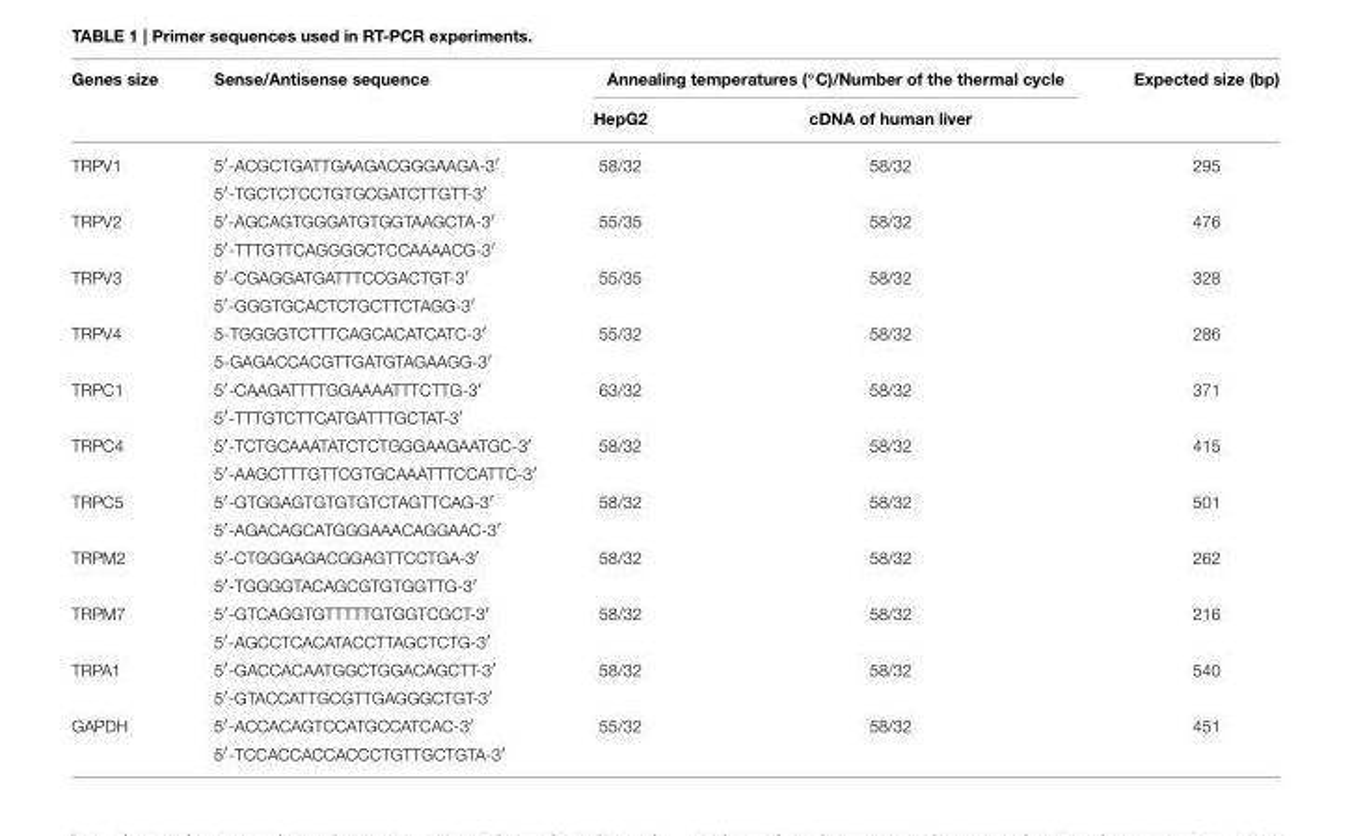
<table><thead><tr><td rowspan="2">Genes size</td><td rowspan="2">Sense/Antisense sequence</td><td colspan="2">Annealing temperatures (◦C)/Number of the thermal cycle</td><td rowspan="2">Expected size (bp)</td></tr><tr><td>HepG2</td><td>cDNA of human liver</td></tr></thead><tbody><tr><td rowspan="2">TRPV1</td><td>5′-ACGCTGATTGAAGACGGGAAGA-3′</td><td>58/32</td><td>58/32</td><td>295</td></tr><tr><td>5′-TGCTCTCCTGTGCGATCTTGTT-3′</td><td></td><td></td><td></td></tr><tr><td rowspan="2">TRPV2</td><td>5′-AGCAGTGGGATGTGGTAAGCTA-3′</td><td>55/35</td><td>58/32</td><td>476</td></tr><tr><td>5′-TTTGTTCAGGGGCTCCAAAACG-3′</td><td></td><td></td><td></td></tr><tr><td rowspan="2">TRPV3</td><td>5′-CGAGGATGATTTCCGACTGT-3′</td><td>55/35</td><td>58/32</td><td>328</td></tr><tr><td>5′-GGGTGCACTCTGCTTCTAGG-3′</td><td></td><td></td><td></td></tr><tr><td rowspan="2">TRPV4</td><td>5-TGGGGTCTTTCAGCACATCATC-3′</td><td>55/32</td><td>58/32</td><td>286</td></tr><tr><td>5-GAGACCACGTTGATGTAGAAGG-3′</td><td></td><td></td><td></td></tr><tr><td rowspan="2">TRPC1</td><td>5′-CAAGATTTTGGAAAATTTCTTG-3′</td><td>63/32</td><td>58/32</td><td>371</td></tr><tr><td>5′-TTTGTCTTCATGATTTGCTAT-3′</td><td></td><td></td><td></td></tr><tr><td rowspan="2">TRPC4</td><td>5′-TCTGCAAATATCTCTGGGAAGAATGC-3′</td><td>58/32</td><td>58/32</td><td>415</td></tr><tr><td>5′-AAGCTTTGTTCGTGCAAATTTCCATTC-3′</td><td></td><td></td><td></td></tr><tr><td rowspan="2">TRPC5</td><td>5′-GTGGAGTGTGTGTCTAGTTCAG-3′</td><td>58/32</td><td>58/32</td><td>501</td></tr><tr><td>5′-AGACAGCATGGGAAACAGGAAC-3′</td><td></td><td></td><td></td></tr><tr><td rowspan="2">TRPM2</td><td>5′-CTGGGAGACGGAGTTCCTGA-3′</td><td>58/32</td><td>58/32</td><td>262</td></tr><tr><td>5′-TGGGGTACAGCGTGTGGTTG-3′</td><td></td><td></td><td></td></tr><tr><td rowspan="2">TRPM7</td><td>5′-GTCAGGTGTTTTTGTGGTCGCT-3′</td><td>58/32</td><td>58/32</td><td>216</td></tr><tr><td>5′-AGCCTCACATACCTTAGCTCTG-3′</td><td></td><td></td><td></td></tr><tr><td rowspan="2">TRPA1</td><td>5′-GACCACAATGGCTGGACAGCTT-3′</td><td>58/32</td><td>58/32</td><td>540</td></tr><tr><td>5′-GTACCATTGCGTTGAGGGCTGT-3′</td><td></td><td></td><td></td></tr><tr><td rowspan="2">GAPDH</td><td>5′-ACCACAGTCCATGCCATCAC-3′</td><td>55/32</td><td>58/32</td><td>451</td></tr><tr><td>5′-TCCACCACCACCCTGTTGCTGTA-3′</td><td></td><td></td><td></td></tr></tbody></table>